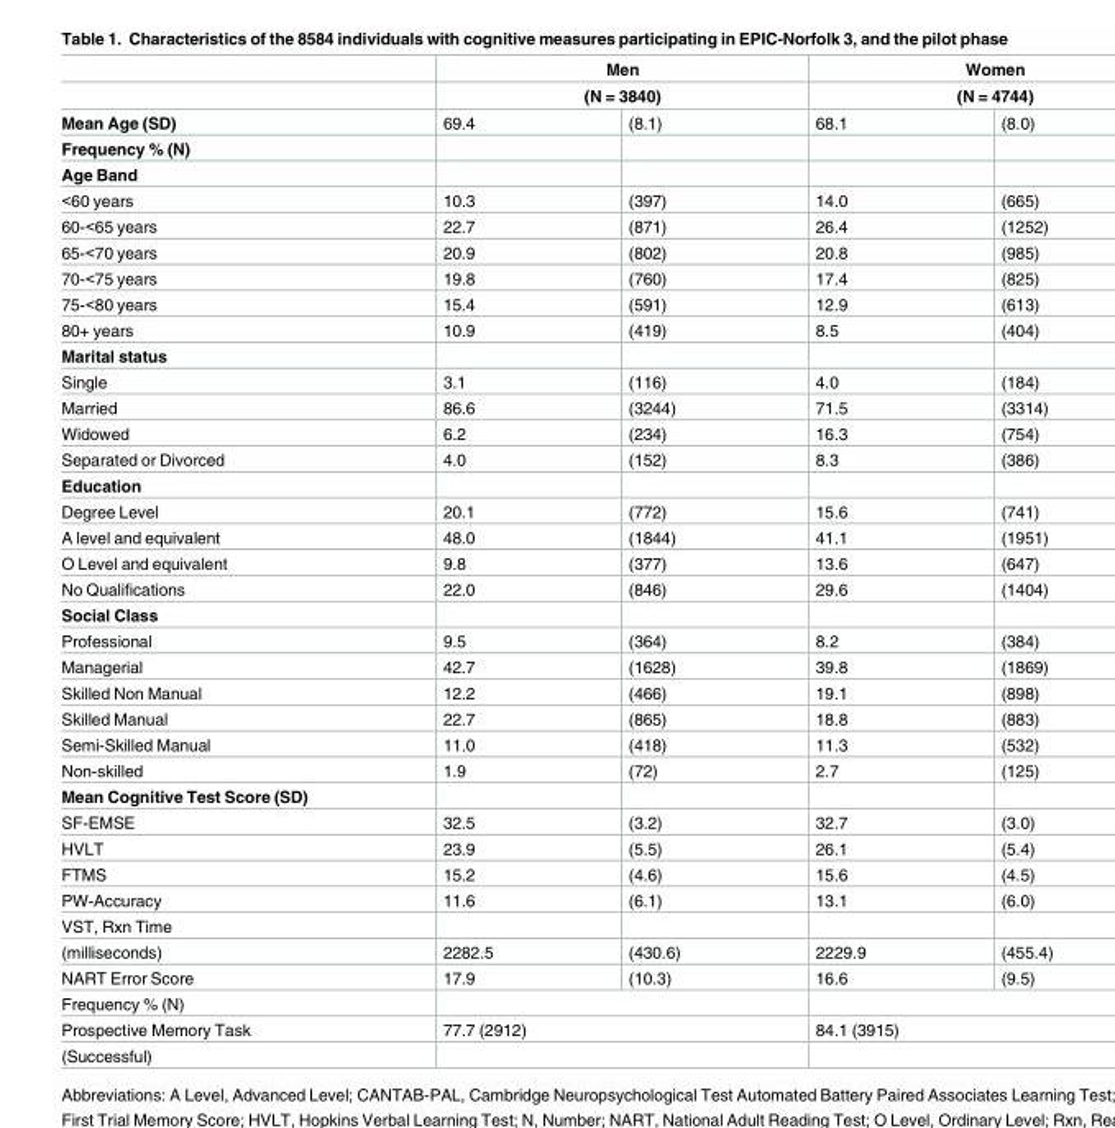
<table><thead><tr><td rowspan="3">Mean Age (SD)</td><td rowspan="2" colspan="2">Men (N = 3840)</td><td rowspan="2" colspan="2">Women (N = 4744)</td></tr><tr></tr><tr><td>69.4</td><td>(8.1)</td><td>68.1</td><td>(8.0)</td></tr></thead><tbody><tr><td colspan="5">Frequency % (N)</td></tr><tr><td colspan="5">Age Band</td></tr><tr><td>&lt;60 years</td><td>10.3</td><td>(397)</td><td>14.0</td><td>(665)</td></tr><tr><td>60-&lt;65 years</td><td>22.7</td><td>(871)</td><td>26.4</td><td>(1252)</td></tr><tr><td>65-&lt;70 years</td><td>20.9</td><td>(802)</td><td>20.8</td><td>(985)</td></tr><tr><td>70-&lt;75 years</td><td>19.8</td><td>(760)</td><td>17.4</td><td>(825)</td></tr><tr><td>75-&lt;80 years</td><td>15.4</td><td>(591)</td><td>12.9</td><td>(613)</td></tr><tr><td>80+ years</td><td>10.9</td><td>(419)</td><td>8.5</td><td>(404)</td></tr><tr><td colspan="5">Marital status</td></tr><tr><td>Single</td><td>3.1</td><td>(116)</td><td>4.0</td><td>(184)</td></tr><tr><td>Married</td><td>86.6</td><td>(3244)</td><td>71.5</td><td>(3314)</td></tr><tr><td>Widowed</td><td>6.2</td><td>(234)</td><td>16.3</td><td>(754)</td></tr><tr><td>Separated or Divorced</td><td>4.0</td><td>(152)</td><td>8.3</td><td>(386)</td></tr><tr><td colspan="5">Education</td></tr><tr><td>Degree Level</td><td>20.1</td><td>(772)</td><td>15.6</td><td>(741)</td></tr><tr><td>A level and equivalent</td><td>48.0</td><td>(1844)</td><td>41.1</td><td>(1951)</td></tr><tr><td>O Level and equivalent</td><td>9.8</td><td>(377)</td><td>13.6</td><td>(647)</td></tr><tr><td>No Qualifications</td><td>22.0</td><td>(846)</td><td>29.6</td><td>(1404)</td></tr><tr><td colspan="5">Social Class</td></tr><tr><td>Professional</td><td>9.5</td><td>(364)</td><td>8.2</td><td>(384)</td></tr><tr><td>Managerial</td><td>42.7</td><td>(1628)</td><td>39.8</td><td>(1869)</td></tr><tr><td>Skilled Non Manual</td><td>12.2</td><td>(466)</td><td>19.1</td><td>(898)</td></tr><tr><td>Skilled Manual</td><td>22.7</td><td>(865)</td><td>18.8</td><td>(883)</td></tr><tr><td>Semi-Skilled Manual</td><td>11.0</td><td>(418)</td><td>11.3</td><td>(532)</td></tr><tr><td>Non-skilled</td><td>1.9</td><td>(72)</td><td>2.7</td><td>(125)</td></tr><tr><td colspan="5">Mean Cognitive Test Score (SD)</td></tr><tr><td>SF-EMSE</td><td>32.5</td><td>(3.2)</td><td>32.7</td><td>(3.0)</td></tr><tr><td>HVLT</td><td>23.9</td><td>(5.5)</td><td>26.1</td><td>(5.4)</td></tr><tr><td>FTMS</td><td>15.2</td><td>(4.6)</td><td>15.6</td><td>(4.5)</td></tr><tr><td>PW-Accuracy</td><td>11.6</td><td>(6.1)</td><td>13.1</td><td>(6.0)</td></tr><tr><td colspan="5">VST, Rxn Time</td></tr><tr><td>(milliseconds)</td><td>2282.5</td><td>(430.6)</td><td>2229.9</td><td>(455.4)</td></tr><tr><td>NART Error Score</td><td>17.9</td><td>(10.3)</td><td>16.6</td><td>(9.5)</td></tr><tr><td colspan="5">Frequency % (N)</td></tr><tr><td>Prospective Memory Task</td><td colspan="2">77.7 (2912)</td><td colspan="2">84.1 (3915)</td></tr><tr><td>(Successful)</td><td colspan="2"></td><td colspan="2"></td></tr></tbody></table>